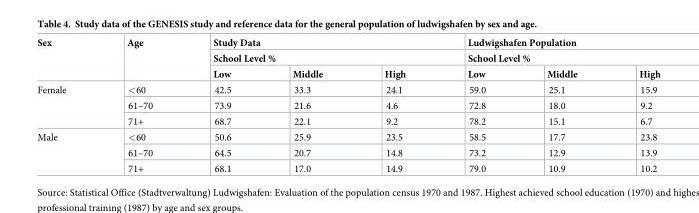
<table><thead><tr><td rowspan="3">Sex</td><td rowspan="3">Age</td><td rowspan="2" colspan="3">Study Data School Level %</td><td rowspan="2" colspan="3">Ludwigshafen Population School Level %</td></tr><tr></tr><tr><td>Low</td><td>Middle</td><td>High</td><td>Low</td><td>Middle</td><td>High</td></tr></thead><tbody><tr><td rowspan="3">Female</td><td>&lt;60</td><td>42.5</td><td>33.3</td><td>24.1</td><td>59.0</td><td>25.1</td><td>15.9</td></tr><tr><td>61–70</td><td>73.9</td><td>21.6</td><td>4.6</td><td>72.8</td><td>18.0</td><td>9.2</td></tr><tr><td>71+</td><td>68.7</td><td>22.1</td><td>9.2</td><td>78.2</td><td>15.1</td><td>6.7</td></tr><tr><td rowspan="3">Male</td><td>&lt;60</td><td>50.6</td><td>25.9</td><td>23.5</td><td>58.5</td><td>17.7</td><td>23.8</td></tr><tr><td>61–70</td><td>64.5</td><td>20.7</td><td>14.8</td><td>73.2</td><td>12.9</td><td>13.9</td></tr><tr><td>71+</td><td>68.1</td><td>17.0</td><td>14.9</td><td>79.0</td><td>10.9</td><td>10.2</td></tr></tbody></table>